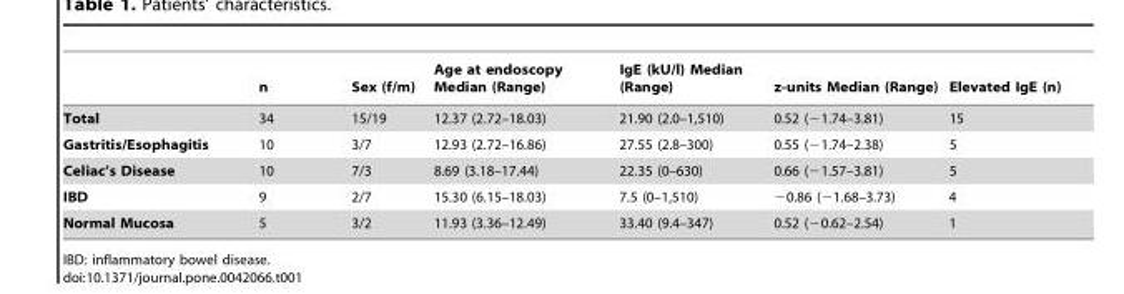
<table><thead><tr><td></td><td>n</td><td>Sex (f/m)</td><td>Age at endoscopy Median (Range)</td><td>IgE (kU/l) Median (Range)</td><td>z-units Median (Range)</td><td>Elevated IgE (n)</td></tr></thead><tbody><tr><td>Total</td><td>34</td><td>15/19</td><td>12.37 (2.72–18.03)</td><td>21.90 (2.0–1,510)</td><td>0.52 (−1.74–3.81)</td><td>15</td></tr><tr><td>Gastritis/Esophagitis</td><td>10</td><td>3/7</td><td>12.93 (2.72–16.86)</td><td>27.55 (2.8–300)</td><td>0.55 (−1.74–2.38)</td><td>5</td></tr><tr><td>Celiac’s Disease</td><td>10</td><td>7/3</td><td>8.69 (3.18–17.44)</td><td>22.35 (0–630)</td><td>0.66 (−1.57–3.81)</td><td>5</td></tr><tr><td>IBD</td><td>9</td><td>2/7</td><td>15.30 (6.15–18.03)</td><td>7.5 (0–1,510)</td><td>−0.86 (−1.68–3.73)</td><td>4</td></tr><tr><td>Normal Mucosa</td><td>5</td><td>3/2</td><td>11.93 (3.36–12.49)</td><td>33.40 (9.4–347)</td><td>0.52 (−0.62–2.54)</td><td>1</td></tr></tbody></table>